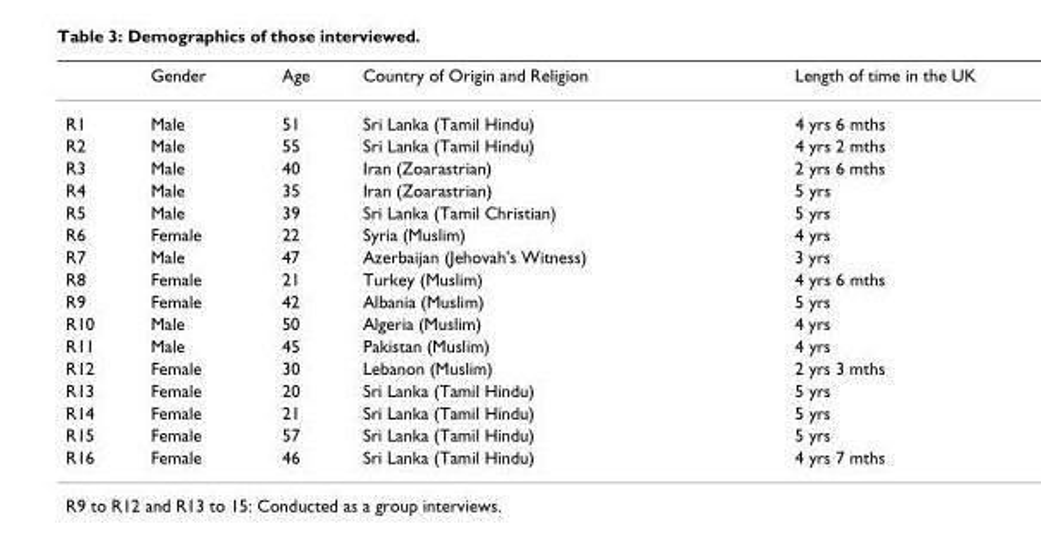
<table><thead><tr><td></td><td>Gender</td><td>Age</td><td>Country of Origin and Religion</td><td>Length of time in the UK</td></tr></thead><tbody><tr><td>R1</td><td>Male</td><td>51</td><td>Sri Lanka (Tamil Hindu)</td><td>4 yrs 6 mths</td></tr><tr><td>R2</td><td>Male</td><td>55</td><td>Sri Lanka (Tamil Hindu)</td><td>4 yrs 2 mths</td></tr><tr><td>R3</td><td>Male</td><td>40</td><td>Iran (Zoarastrian)</td><td>2 yrs 6 mths</td></tr><tr><td>R4</td><td>Male</td><td>35</td><td>Iran (Zoarastrian)</td><td>5 yrs</td></tr><tr><td>R5</td><td>Male</td><td>39</td><td>Sri Lanka (Tamil Christian)</td><td>5 yrs</td></tr><tr><td>R6</td><td>Female</td><td>22</td><td>Syria (Muslim)</td><td>4 yrs</td></tr><tr><td>R7</td><td>Male</td><td>47</td><td>Azerbaijan (Jehovah&#x27;s Witness)</td><td>3 yrs</td></tr><tr><td>R8</td><td>Female</td><td>21</td><td>Turkey (Muslim)</td><td>4 yrs 6 mths</td></tr><tr><td>R9</td><td>Female</td><td>42</td><td>Albania (Muslim)</td><td>5 yrs</td></tr><tr><td>R10</td><td>Male</td><td>50</td><td>Algeria (Muslim)</td><td>4 yrs</td></tr><tr><td>R11</td><td>Male</td><td>45</td><td>Pakistan (Muslim)</td><td>4 yrs</td></tr><tr><td>R12</td><td>Female</td><td>30</td><td>Lebanon (Muslim)</td><td>2 yrs 3 mths</td></tr><tr><td>R13</td><td>Female</td><td>20</td><td>Sri Lanka (Tamil Hindu)</td><td>5 yrs</td></tr><tr><td>R14</td><td>Female</td><td>21</td><td>Sri Lanka (Tamil Hindu)</td><td>5 yrs</td></tr><tr><td>R15</td><td>Female</td><td>57</td><td>Sri Lanka (Tamil Hindu)</td><td>5 yrs</td></tr><tr><td>R16</td><td>Female</td><td>46</td><td>Sri Lanka (Tamil Hindu)</td><td>4 yrs 7 mths</td></tr></tbody></table>